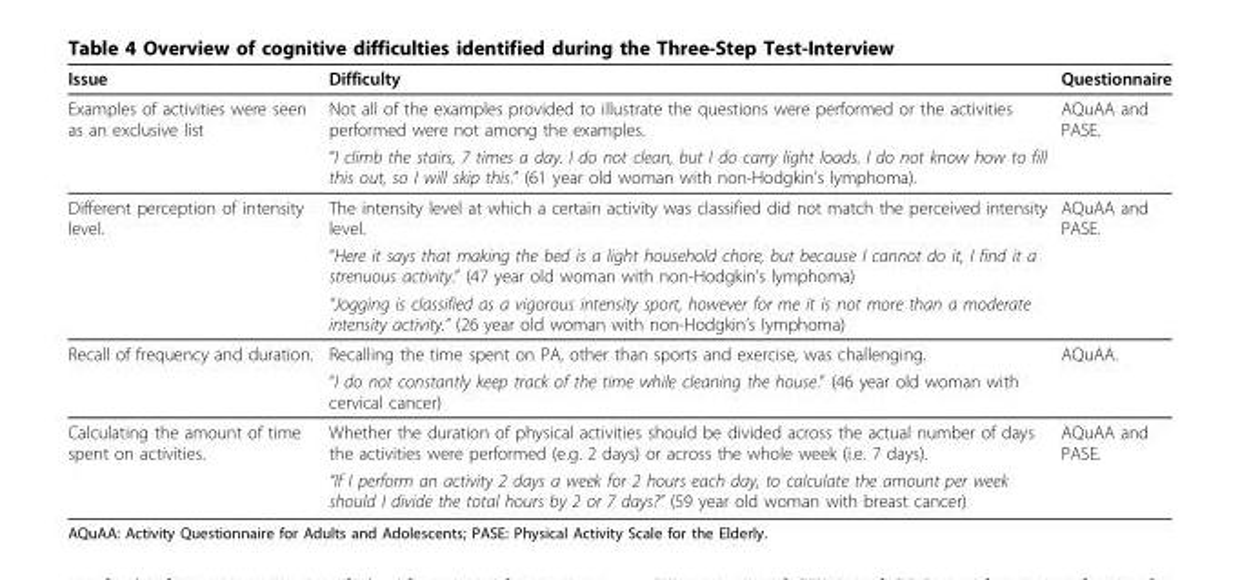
<table><thead><tr><td>Issue</td><td>Difficulty</td><td>Questionnaire</td></tr></thead><tbody><tr><td rowspan="2">Examples of activities were seen as an exclusive list</td><td>Not all of the examples provided to illustrate the questions were performed or the activities performed were not among the examples.</td><td>AQuAA and PASE.</td></tr><tr><td>“I climb the stairs, 7 times a day. I do not clean, but I do carry light loads. I do not know how to fill this out, so I will skip this.” (61 year old woman with non-Hodgkin’s lymphoma).</td><td></td></tr><tr><td rowspan="3">Different perception of intensity level.</td><td>The intensity level at which a certain activity was classified did not match the perceived intensity level.</td><td>AQuAA and PASE.</td></tr><tr><td>“Here it says that making the bed is a light household chore, but because I cannot do it, I find it a strenuous activity.” (47 year old woman with non-Hodgkin’s lymphoma)</td><td></td></tr><tr><td>“Jogging is classified as a vigorous intensity sport, however for me it is not more than a moderate intensity activity.” (26 year old woman with non-Hodgkin’s lymphoma)</td><td></td></tr><tr><td rowspan="2">Recall of frequency and duration.</td><td>Recalling the time spent on PA, other than sports and exercise, was challenging.</td><td>AQuAA.</td></tr><tr><td>“I do not constantly keep track of the time while cleaning the house.” (46 year old woman with cervical cancer)</td><td></td></tr><tr><td rowspan="2">Calculating the amount of time spent on activities.</td><td>Whether the duration of physical activities should be divided across the actual number of days the activities were performed (e.g. 2 days) or across the whole week (i.e. 7 days).</td><td>AQuAA and PASE.</td></tr><tr><td>“If I perform an activity 2 days a week for 2 hours each day, to calculate the amount per week should I divide the total hours by 2 or 7 days?” (59 year old woman with breast cancer)</td><td></td></tr></tbody></table>